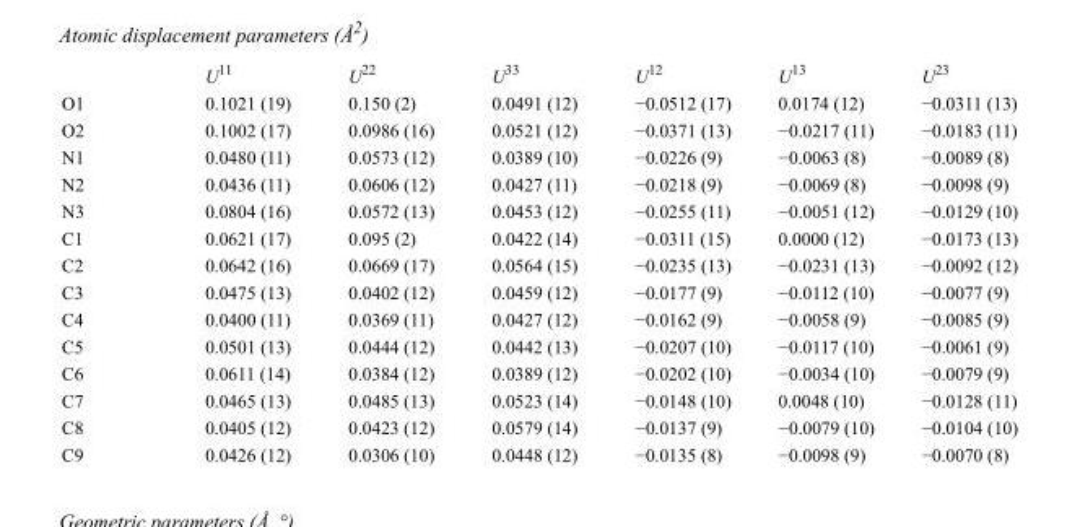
<table><thead><tr><td></td><td>U<sup>11</sup></td><td>U<sup>22</sup></td><td>U<sup>33</sup></td><td>U<sup>12</sup></td><td>U<sup>13</sup></td><td>U<sup>23</sup></td></tr></thead><tbody><tr><td>O1</td><td>0.1021 (19)</td><td>0.150 (2)</td><td>0.0491 (12)</td><td>−0.0512 (17)</td><td>0.0174 (12)</td><td>−0.0311 (13)</td></tr><tr><td>O2</td><td>0.1002 (17)</td><td>0.0986 (16)</td><td>0.0521 (12)</td><td>−0.0371 (13)</td><td>−0.0217 (11)</td><td>−0.0183 (11)</td></tr><tr><td>N1</td><td>0.0480 (11)</td><td>0.0573 (12)</td><td>0.0389 (10)</td><td>−0.0226 (9)</td><td>−0.0063 (8)</td><td>−0.0089 (8)</td></tr><tr><td>N2</td><td>0.0436 (11)</td><td>0.0606 (12)</td><td>0.0427 (11)</td><td>−0.0218 (9)</td><td>−0.0069 (8)</td><td>−0.0098 (9)</td></tr><tr><td>N3</td><td>0.0804 (16)</td><td>0.0572 (13)</td><td>0.0453 (12)</td><td>−0.0255 (11)</td><td>−0.0051 (12)</td><td>−0.0129 (10)</td></tr><tr><td>C1</td><td>0.0621 (17)</td><td>0.095 (2)</td><td>0.0422 (14)</td><td>−0.0311 (15)</td><td>0.0000 (12)</td><td>−0.0173 (13)</td></tr><tr><td>C2</td><td>0.0642 (16)</td><td>0.0669 (17)</td><td>0.0564 (15)</td><td>−0.0235 (13)</td><td>−0.0231 (13)</td><td>−0.0092 (12)</td></tr><tr><td>C3</td><td>0.0475 (13)</td><td>0.0402 (12)</td><td>0.0459 (12)</td><td>−0.0177 (9)</td><td>−0.0112 (10)</td><td>−0.0077 (9)</td></tr><tr><td>C4</td><td>0.0400 (11)</td><td>0.0369 (11)</td><td>0.0427 (12)</td><td>−0.0162 (9)</td><td>−0.0058 (9)</td><td>−0.0085 (9)</td></tr><tr><td>C5</td><td>0.0501 (13)</td><td>0.0444 (12)</td><td>0.0442 (13)</td><td>−0.0207 (10)</td><td>−0.0117 (10)</td><td>−0.0061 (9)</td></tr><tr><td>C6</td><td>0.0611 (14)</td><td>0.0384 (12)</td><td>0.0389 (12)</td><td>−0.0202 (10)</td><td>−0.0034 (10)</td><td>−0.0079 (9)</td></tr><tr><td>C7</td><td>0.0465 (13)</td><td>0.0485 (13)</td><td>0.0523 (14)</td><td>−0.0148 (10)</td><td>0.0048 (10)</td><td>−0.0128 (11)</td></tr><tr><td>C8</td><td>0.0405 (12)</td><td>0.0423 (12)</td><td>0.0579 (14)</td><td>−0.0137 (9)</td><td>−0.0079 (10)</td><td>−0.0104 (10)</td></tr><tr><td>C9</td><td>0.0426 (12)</td><td>0.0306 (10)</td><td>0.0448 (12)</td><td>−0.0135 (8)</td><td>−0.0098 (9)</td><td>−0.0070 (8)</td></tr></tbody></table>